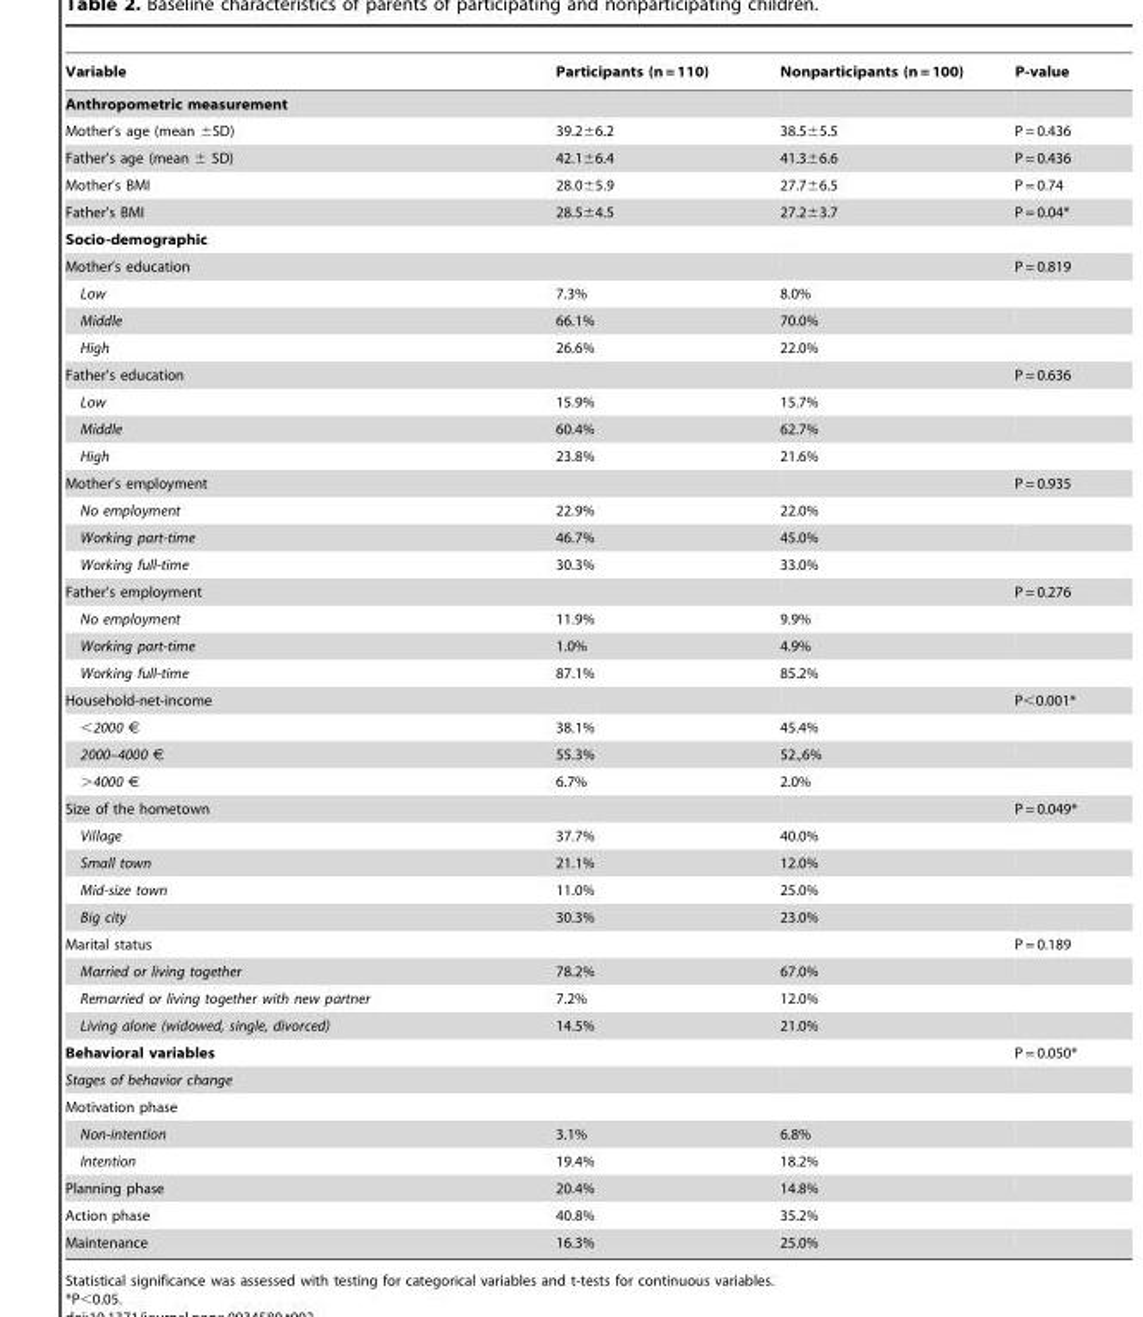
<table><thead><tr><td>Variable</td><td>Participants (n = 110)</td><td>Nonparticipants (n = 100)</td><td>P-value</td></tr></thead><tbody><tr><td colspan="4">Anthropometric measurement</td></tr><tr><td>Mother’s age (mean ±SD)</td><td>39.2±6.2</td><td>38.5±5.5</td><td>P = 0.436</td></tr><tr><td>Father’s age (mean ± SD)</td><td>42.1±6.4</td><td>41.3±6.6</td><td>P = 0.436</td></tr><tr><td>Mother’s BMI</td><td>28.0±5.9</td><td>27.7±6.5</td><td>P = 0.74</td></tr><tr><td>Father’s BMI</td><td>28.5±4.5</td><td>27.2±3.7</td><td>P = 0.04*</td></tr><tr><td colspan="4">Socio-demographic</td></tr><tr><td>Mother’s education</td><td></td><td></td><td>P = 0.819</td></tr><tr><td>Low</td><td>7.3%</td><td>8.0%</td><td></td></tr><tr><td>Middle</td><td>66.1%</td><td>70.0%</td><td></td></tr><tr><td>High</td><td>26.6%</td><td>22.0%</td><td></td></tr><tr><td>Father’s education</td><td></td><td></td><td>P = 0.636</td></tr><tr><td>Low</td><td>15.9%</td><td>15.7%</td><td></td></tr><tr><td>Middle</td><td>60.4%</td><td>62.7%</td><td></td></tr><tr><td>High</td><td>23.8%</td><td>21.6%</td><td></td></tr><tr><td>Mother’s employment</td><td></td><td></td><td>P = 0.935</td></tr><tr><td>No employment</td><td>22.9%</td><td>22.0%</td><td></td></tr><tr><td>Working part-time</td><td>46.7%</td><td>45.0%</td><td></td></tr><tr><td>Working full-time</td><td>30.3%</td><td>33.0%</td><td></td></tr><tr><td>Father’s employment</td><td></td><td></td><td>P = 0.276</td></tr><tr><td>No employment</td><td>11.9%</td><td>9.9%</td><td></td></tr><tr><td>Working part-time</td><td>1.0%</td><td>4.9%</td><td></td></tr><tr><td>Working full-time</td><td>87.1%</td><td>85.2%</td><td></td></tr><tr><td>Household-net-income</td><td></td><td></td><td>P&lt;0.001*</td></tr><tr><td>&lt;2000 €</td><td>38.1%</td><td>45.4%</td><td></td></tr><tr><td>2000–4000 €</td><td>55.3%</td><td>52.,6%</td><td></td></tr><tr><td>&gt;4000 €</td><td>6.7%</td><td>2.0%</td><td></td></tr><tr><td>Size of the hometown</td><td></td><td></td><td>P = 0.049*</td></tr><tr><td>Village</td><td>37.7%</td><td>40.0%</td><td></td></tr><tr><td>Small town</td><td>21.1%</td><td>12.0%</td><td></td></tr><tr><td>Mid-size town</td><td>11.0%</td><td>25.0%</td><td></td></tr><tr><td>Big city</td><td>30.3%</td><td>23.0%</td><td></td></tr><tr><td>Marital status</td><td></td><td></td><td>P = 0.189</td></tr><tr><td>Married or living together</td><td>78.2%</td><td>67.0%</td><td></td></tr><tr><td>Remarried or living together with new partner</td><td>7.2%</td><td>12.0%</td><td></td></tr><tr><td>Living alone (widowed, single, divorced)</td><td>14.5%</td><td>21.0%</td><td></td></tr><tr><td>Behavioral variables</td><td></td><td></td><td>P = 0.050*</td></tr><tr><td colspan="4">Stages of behavior change</td></tr><tr><td colspan="4">Motivation phase</td></tr><tr><td>Non-intention</td><td>3.1%</td><td>6.8%</td><td></td></tr><tr><td>Intention</td><td>19.4%</td><td>18.2%</td><td></td></tr><tr><td>Planning phase</td><td>20.4%</td><td>14.8%</td><td></td></tr><tr><td>Action phase</td><td>40.8%</td><td>35.2%</td><td></td></tr><tr><td>Maintenance</td><td>16.3%</td><td>25.0%</td><td></td></tr></tbody></table>